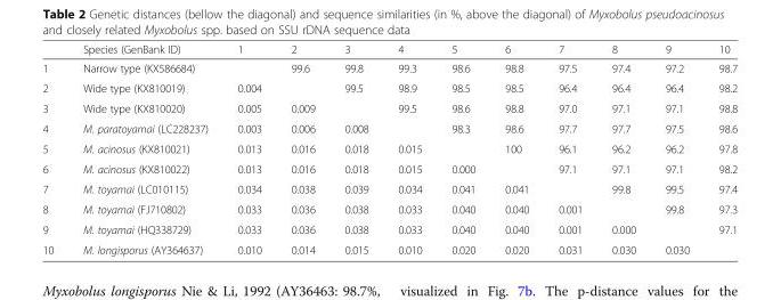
<table><thead><tr><td></td><td>Species (GenBank ID)</td><td>1</td><td>2</td><td>3</td><td>4</td><td>5</td><td>6</td><td>7</td><td>8</td><td>9</td><td>10</td></tr></thead><tbody><tr><td>1</td><td>Narrow type (KX586684)</td><td></td><td>99.6</td><td>99.8</td><td>99.3</td><td>98.6</td><td>98.8</td><td>97.5</td><td>97.4</td><td>97.2</td><td>98.7</td></tr><tr><td>2</td><td>Wide type (KX810019)</td><td>0.004</td><td></td><td>99.5</td><td>98.9</td><td>98.5</td><td>98.5</td><td>96.4</td><td>96.4</td><td>96.4</td><td>98.2</td></tr><tr><td>3</td><td>Wide type (KX810020)</td><td>0.005</td><td>0.009</td><td></td><td>99.5</td><td>98.6</td><td>98.8</td><td>97.0</td><td>97.1</td><td>97.1</td><td>98.8</td></tr><tr><td>4</td><td>M. paratoyamai (LC228237)</td><td>0.003</td><td>0.006</td><td>0.008</td><td></td><td>98.3</td><td>98.6</td><td>97.7</td><td>97.7</td><td>97.5</td><td>98.6</td></tr><tr><td>5</td><td>M. acinosus (KX810021)</td><td>0.013</td><td>0.016</td><td>0.018</td><td>0.015</td><td></td><td>100</td><td>96.1</td><td>96.2</td><td>96.2</td><td>97.8</td></tr><tr><td>6</td><td>M. acinosus (KX810022)</td><td>0.013</td><td>0.016</td><td>0.018</td><td>0.015</td><td>0.000</td><td></td><td>97.1</td><td>97.1</td><td>97.1</td><td>98.2</td></tr><tr><td>7</td><td>M. toyamai (LC010115)</td><td>0.034</td><td>0.038</td><td>0.039</td><td>0.034</td><td>0.041</td><td>0.041</td><td></td><td>99.8</td><td>99.5</td><td>97.4</td></tr><tr><td>8</td><td>M. toyamai (FJ710802)</td><td>0.033</td><td>0.036</td><td>0.038</td><td>0.033</td><td>0.040</td><td>0.040</td><td>0.001</td><td></td><td>99.8</td><td>97.3</td></tr><tr><td>9</td><td>M. toyamai (HQ338729)</td><td>0.033</td><td>0.036</td><td>0.038</td><td>0.033</td><td>0.040</td><td>0.040</td><td>0.001</td><td>0.000</td><td></td><td>97.1</td></tr><tr><td>10</td><td>M. longisporus (AY364637)</td><td>0.010</td><td>0.014</td><td>0.015</td><td>0.010</td><td>0.020</td><td>0.020</td><td>0.031</td><td>0.030</td><td>0.030</td><td></td></tr></tbody></table>